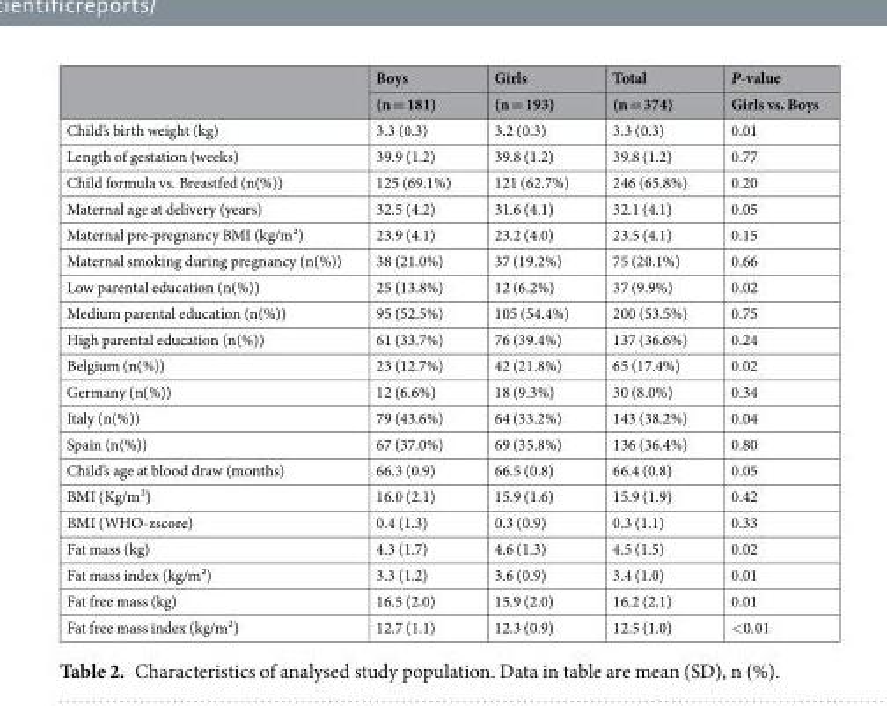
<table><thead><tr><td rowspan="2"></td><td rowspan="2">Boys (n = 181)</td><td rowspan="2">Girls (n = 193)</td><td rowspan="2">Total (n = 374)</td><td rowspan="2">P-value Girls vs. Boys</td></tr><tr></tr></thead><tbody><tr><td>Child’s birth weight (kg)</td><td>3.3 (0.3)</td><td>3.2 (0.3)</td><td>3.3 (0.3)</td><td>0.01</td></tr><tr><td>Length of gestation (weeks)</td><td>39.9 (1.2)</td><td>39.8 (1.2)</td><td>39.8 (1.2)</td><td>0.77</td></tr><tr><td>Child formula vs. Breastfed (n(%))</td><td>125 (69.1%)</td><td>121 (62.7%)</td><td>246 (65.8%)</td><td>0.20</td></tr><tr><td>Maternal age at delivery (years)</td><td>32.5 (4.2)</td><td>31.6 (4.1)</td><td>32.1 (4.1)</td><td>0.05</td></tr><tr><td>Maternal pre-pregnancy BMI (kg/m²)</td><td>23.9 (4.1)</td><td>23.2 (4.0)</td><td>23.5 (4.1)</td><td>0.15</td></tr><tr><td>Maternal smoking during pregnancy (n(%))</td><td>38 (21.0%)</td><td>37 (19.2%)</td><td>75 (20.1%)</td><td>0.66</td></tr><tr><td>Low parental education (n(%))</td><td>25 (13.8%)</td><td>12 (6.2%)</td><td>37 (9.9%)</td><td>0.02</td></tr><tr><td>Medium parental education (n(%))</td><td>95 (52.5%)</td><td>105 (54.4%)</td><td>200 (53.5%)</td><td>0.75</td></tr><tr><td>High parental education (n(%))</td><td>61 (33.7%)</td><td>76 (39.4%)</td><td>137 (36.6%)</td><td>0.24</td></tr><tr><td>Belgium (n(%))</td><td>23 (12.7%)</td><td>42 (21.8%)</td><td>65 (17.4%)</td><td>0.02</td></tr><tr><td>Germany (n(%))</td><td>12 (6.6%)</td><td>18 (9.3%)</td><td>30 (8.0%)</td><td>0.34</td></tr><tr><td>Italy (n(%))</td><td>79 (43.6%)</td><td>64 (33.2%)</td><td>143 (38.2%)</td><td>0.04</td></tr><tr><td>Spain (n(%))</td><td>67 (37.0%)</td><td>69 (35.8%)</td><td>136 (36.4%)</td><td>0.80</td></tr><tr><td>Child’s age at blood draw (months)</td><td>66.3 (0.9)</td><td>66.5 (0.8)</td><td>66.4 (0.8)</td><td>0.05</td></tr><tr><td>BMI (Kg/m²)</td><td>16.0 (2.1)</td><td>15.9 (1.6)</td><td>15.9 (1.9)</td><td>0.42</td></tr><tr><td>BMI (WHO-zscore)</td><td>0.4 (1.3)</td><td>0.3 (0.9)</td><td>0.3 (1.1)</td><td>0.33</td></tr><tr><td>Fat mass (kg)</td><td>4.3 (1.7)</td><td>4.6 (1.3)</td><td>4.5 (1.5)</td><td>0.02</td></tr><tr><td>Fat mass index (kg/m²)</td><td>3.3 (1.2)</td><td>3.6 (0.9)</td><td>3.4 (1.0)</td><td>0.01</td></tr><tr><td>Fat free mass (kg)</td><td>16.5 (2.0)</td><td>15.9 (2.0)</td><td>16.2 (2.1)</td><td>0.01</td></tr><tr><td>Fat free mass index (kg/m²)</td><td>12.7 (1.1)</td><td>12.3 (0.9)</td><td>12.5 (1.0)</td><td>&lt;0.01</td></tr></tbody></table>